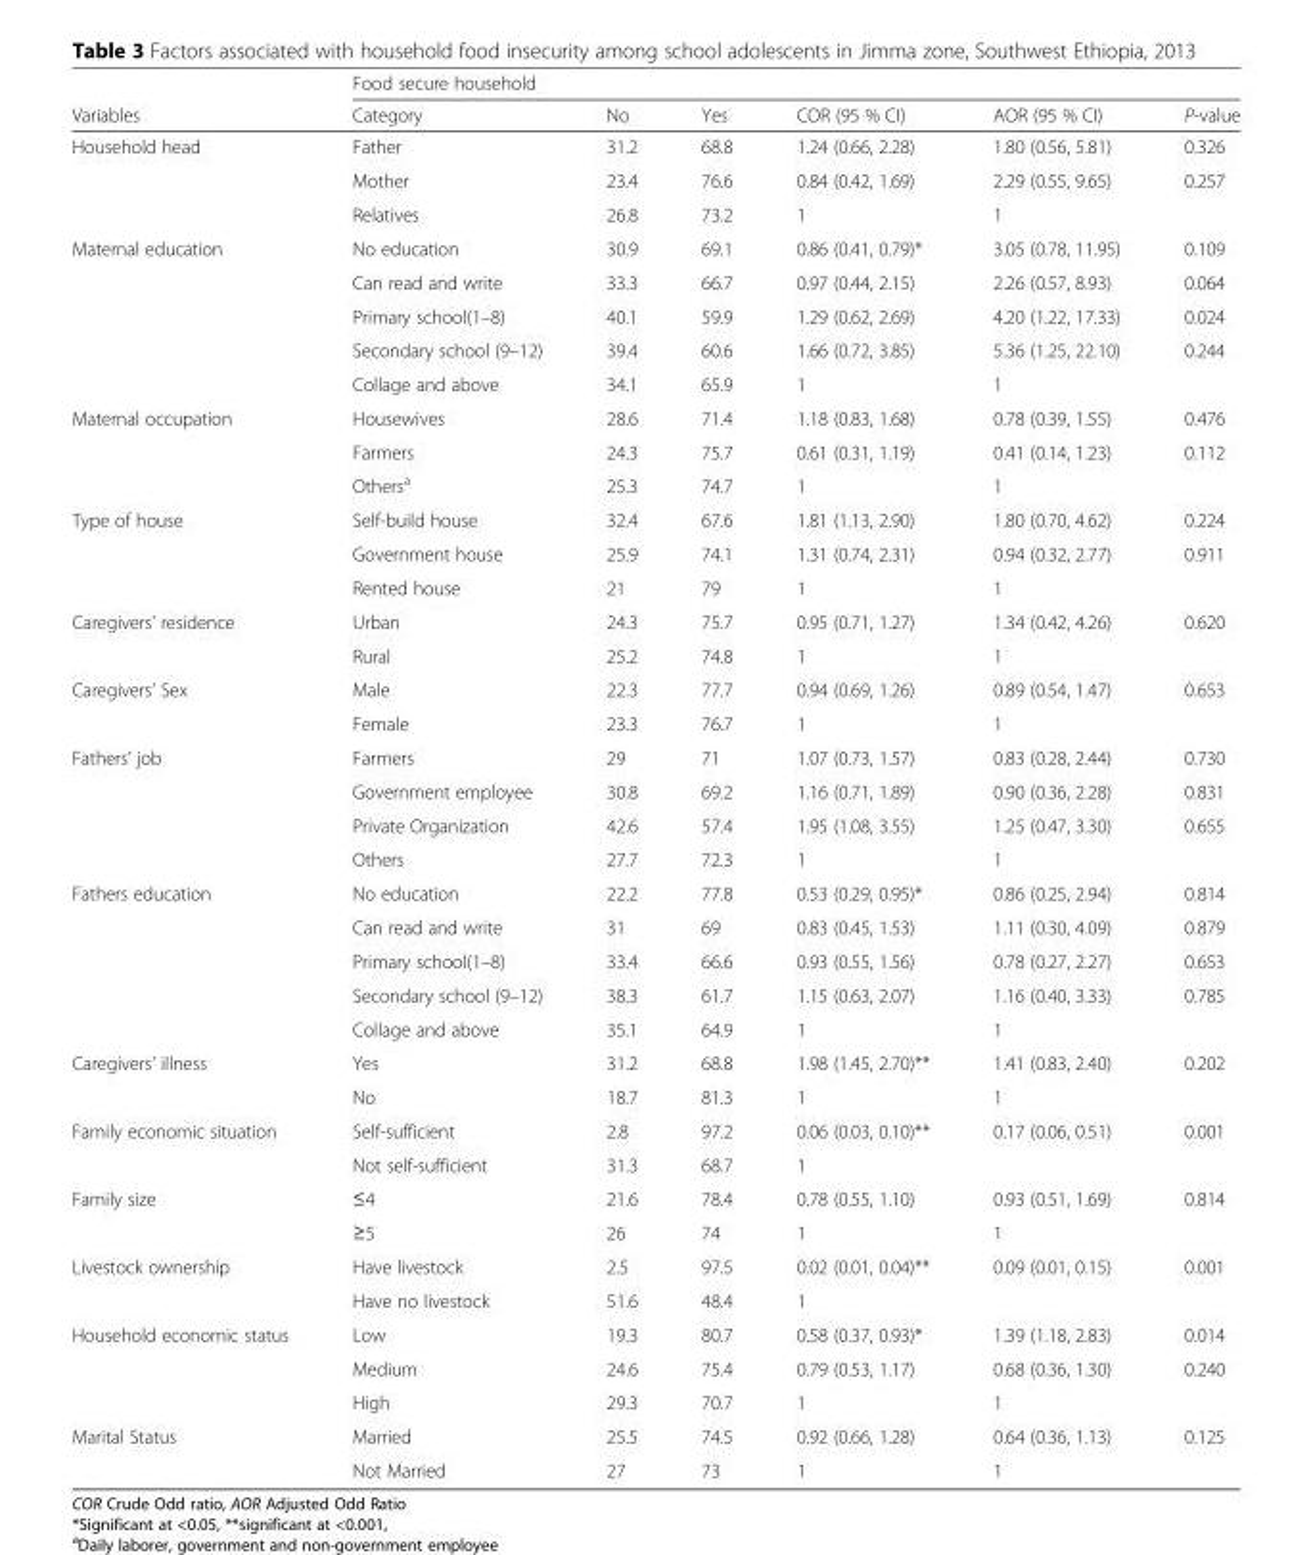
<table><thead><tr><td rowspan="2">Variables</td><td colspan="6">Food secure household</td></tr><tr><td>Category</td><td>No</td><td>Yes</td><td>COR (95 % CI)</td><td>AOR (95 % CI)</td><td>P-value</td></tr></thead><tbody><tr><td rowspan="3">Household head</td><td>Father</td><td>31.2</td><td>68.8</td><td>1.24 (0.66, 2.28)</td><td>1.80 (0.56, 5.81)</td><td>0.326</td></tr><tr><td>Mother</td><td>23.4</td><td>76.6</td><td>0.84 (0.42, 1.69)</td><td>2.29 (0.55, 9.65)</td><td>0.257</td></tr><tr><td>Relatives</td><td>26.8</td><td>73.2</td><td>1</td><td>1</td><td></td></tr><tr><td rowspan="5">Maternal education</td><td>No education</td><td>30.9</td><td>69.1</td><td>0.86 (0.41, 0.79)*</td><td>3.05 (0.78, 11.95)</td><td>0.109</td></tr><tr><td>Can read and write</td><td>33.3</td><td>66.7</td><td>0.97 (0.44, 2.15)</td><td>2.26 (0.57, 8.93)</td><td>0.064</td></tr><tr><td>Primary school(1–8)</td><td>40.1</td><td>59.9</td><td>1.29 (0.62, 2.69)</td><td>4.20 (1.22, 17.33)</td><td>0.024</td></tr><tr><td>Secondary school (9–12)</td><td>39.4</td><td>60.6</td><td>1.66 (0.72, 3.85)</td><td>5.36 (1.25, 22.10)</td><td>0.244</td></tr><tr><td>Collage and above</td><td>34.1</td><td>65.9</td><td>1</td><td>1</td><td></td></tr><tr><td rowspan="3">Maternal occupation</td><td>Housewives</td><td>28.6</td><td>71.4</td><td>1.18 (0.83, 1.68)</td><td>0.78 (0.39, 1.55)</td><td>0.476</td></tr><tr><td>Farmers</td><td>24.3</td><td>75.7</td><td>0.61 (0.31, 1.19)</td><td>0.41 (0.14, 1.23)</td><td>0.112</td></tr><tr><td>Others<sup>a</sup></td><td>25.3</td><td>74.7</td><td>1</td><td>1</td><td></td></tr><tr><td rowspan="3">Type of house</td><td>Self-build house</td><td>32.4</td><td>67.6</td><td>1.81 (1.13, 2.90)</td><td>1.80 (0.70, 4.62)</td><td>0.224</td></tr><tr><td>Government house</td><td>25.9</td><td>74.1</td><td>1.31 (0.74, 2.31)</td><td>0.94 (0.32, 2.77)</td><td>0.911</td></tr><tr><td>Rented house</td><td>21</td><td>79</td><td>1</td><td>1</td><td></td></tr><tr><td rowspan="2">Caregivers’ residence</td><td>Urban</td><td>24.3</td><td>75.7</td><td>0.95 (0.71, 1.27)</td><td>1.34 (0.42, 4.26)</td><td>0.620</td></tr><tr><td>Rural</td><td>25.2</td><td>74.8</td><td>1</td><td>1</td><td></td></tr><tr><td rowspan="2">Caregivers’ Sex</td><td>Male</td><td>22.3</td><td>77.7</td><td>0.94 (0.69, 1.26)</td><td>0.89 (0.54, 1.47)</td><td>0.653</td></tr><tr><td>Female</td><td>23.3</td><td>76.7</td><td>1</td><td>1</td><td></td></tr><tr><td rowspan="4">Fathers’ job</td><td>Farmers</td><td>29</td><td>71</td><td>1.07 (0.73, 1.57)</td><td>0.83 (0.28, 2.44)</td><td>0.730</td></tr><tr><td>Government employee</td><td>30.8</td><td>69.2</td><td>1.16 (0.71, 1.89)</td><td>0.90 (0.36, 2.28)</td><td>0.831</td></tr><tr><td>Private Organization</td><td>42.6</td><td>57.4</td><td>1.95 (1.08, 3.55)</td><td>1.25 (0.47, 3.30)</td><td>0.655</td></tr><tr><td>Others</td><td>27.7</td><td>72.3</td><td>1</td><td>1</td><td></td></tr><tr><td rowspan="5">Fathers education</td><td>No education</td><td>22.2</td><td>77.8</td><td>0.53 (0.29, 0.95)*</td><td>0.86 (0.25, 2.94)</td><td>0.814</td></tr><tr><td>Can read and write</td><td>31</td><td>69</td><td>0.83 (0.45, 1.53)</td><td>1.11 (0.30, 4.09)</td><td>0.879</td></tr><tr><td>Primary school(1–8)</td><td>33.4</td><td>66.6</td><td>0.93 (0.55, 1.56)</td><td>0.78 (0.27, 2.27)</td><td>0.653</td></tr><tr><td>Secondary school (9–12)</td><td>38.3</td><td>61.7</td><td>1.15 (0.63, 2.07)</td><td>1.16 (0.40, 3.33)</td><td>0.785</td></tr><tr><td>Collage and above</td><td>35.1</td><td>64.9</td><td>1</td><td>1</td><td></td></tr><tr><td rowspan="2">Caregivers’ illness</td><td>Yes</td><td>31.2</td><td>68.8</td><td>1.98 (1.45, 2.70)**</td><td>1.41 (0.83, 2.40)</td><td>0.202</td></tr><tr><td>No</td><td>18.7</td><td>81.3</td><td>1</td><td>1</td><td></td></tr><tr><td rowspan="2">Family economic situation</td><td>Self-sufficient</td><td>2.8</td><td>97.2</td><td>0.06 (0.03, 0.10)**</td><td>0.17 (0.06, 0.51)</td><td>0.001</td></tr><tr><td>Not self-sufficient</td><td>31.3</td><td>68.7</td><td>1</td><td></td><td></td></tr><tr><td rowspan="2">Family size</td><td>≤4</td><td>21.6</td><td>78.4</td><td>0.78 (0.55, 1.10)</td><td>0.93 (0.51, 1.69)</td><td>0.814</td></tr><tr><td>≥5</td><td>26</td><td>74</td><td>1</td><td>1</td><td></td></tr><tr><td rowspan="2">Livestock ownership</td><td>Have livestock</td><td>2.5</td><td>97.5</td><td>0.02 (0.01, 0.04)**</td><td>0.09 (0.01, 0.15)</td><td>0.001</td></tr><tr><td>Have no livestock</td><td>51.6</td><td>48.4</td><td>1</td><td></td><td></td></tr><tr><td rowspan="3">Household economic status</td><td>Low</td><td>19.3</td><td>80.7</td><td>0.58 (0.37, 0.93)*</td><td>1.39 (1.18, 2.83)</td><td>0.014</td></tr><tr><td>Medium</td><td>24.6</td><td>75.4</td><td>0.79 (0.53, 1.17)</td><td>0.68 (0.36, 1.30)</td><td>0.240</td></tr><tr><td>High</td><td>29.3</td><td>70.7</td><td>1</td><td>1</td><td></td></tr><tr><td rowspan="2">Marital Status</td><td>Married</td><td>25.5</td><td>74.5</td><td>0.92 (0.66, 1.28)</td><td>0.64 (0.36, 1.13)</td><td>0.125</td></tr><tr><td>Not Married</td><td>27</td><td>73</td><td>1</td><td>1</td><td></td></tr></tbody></table>